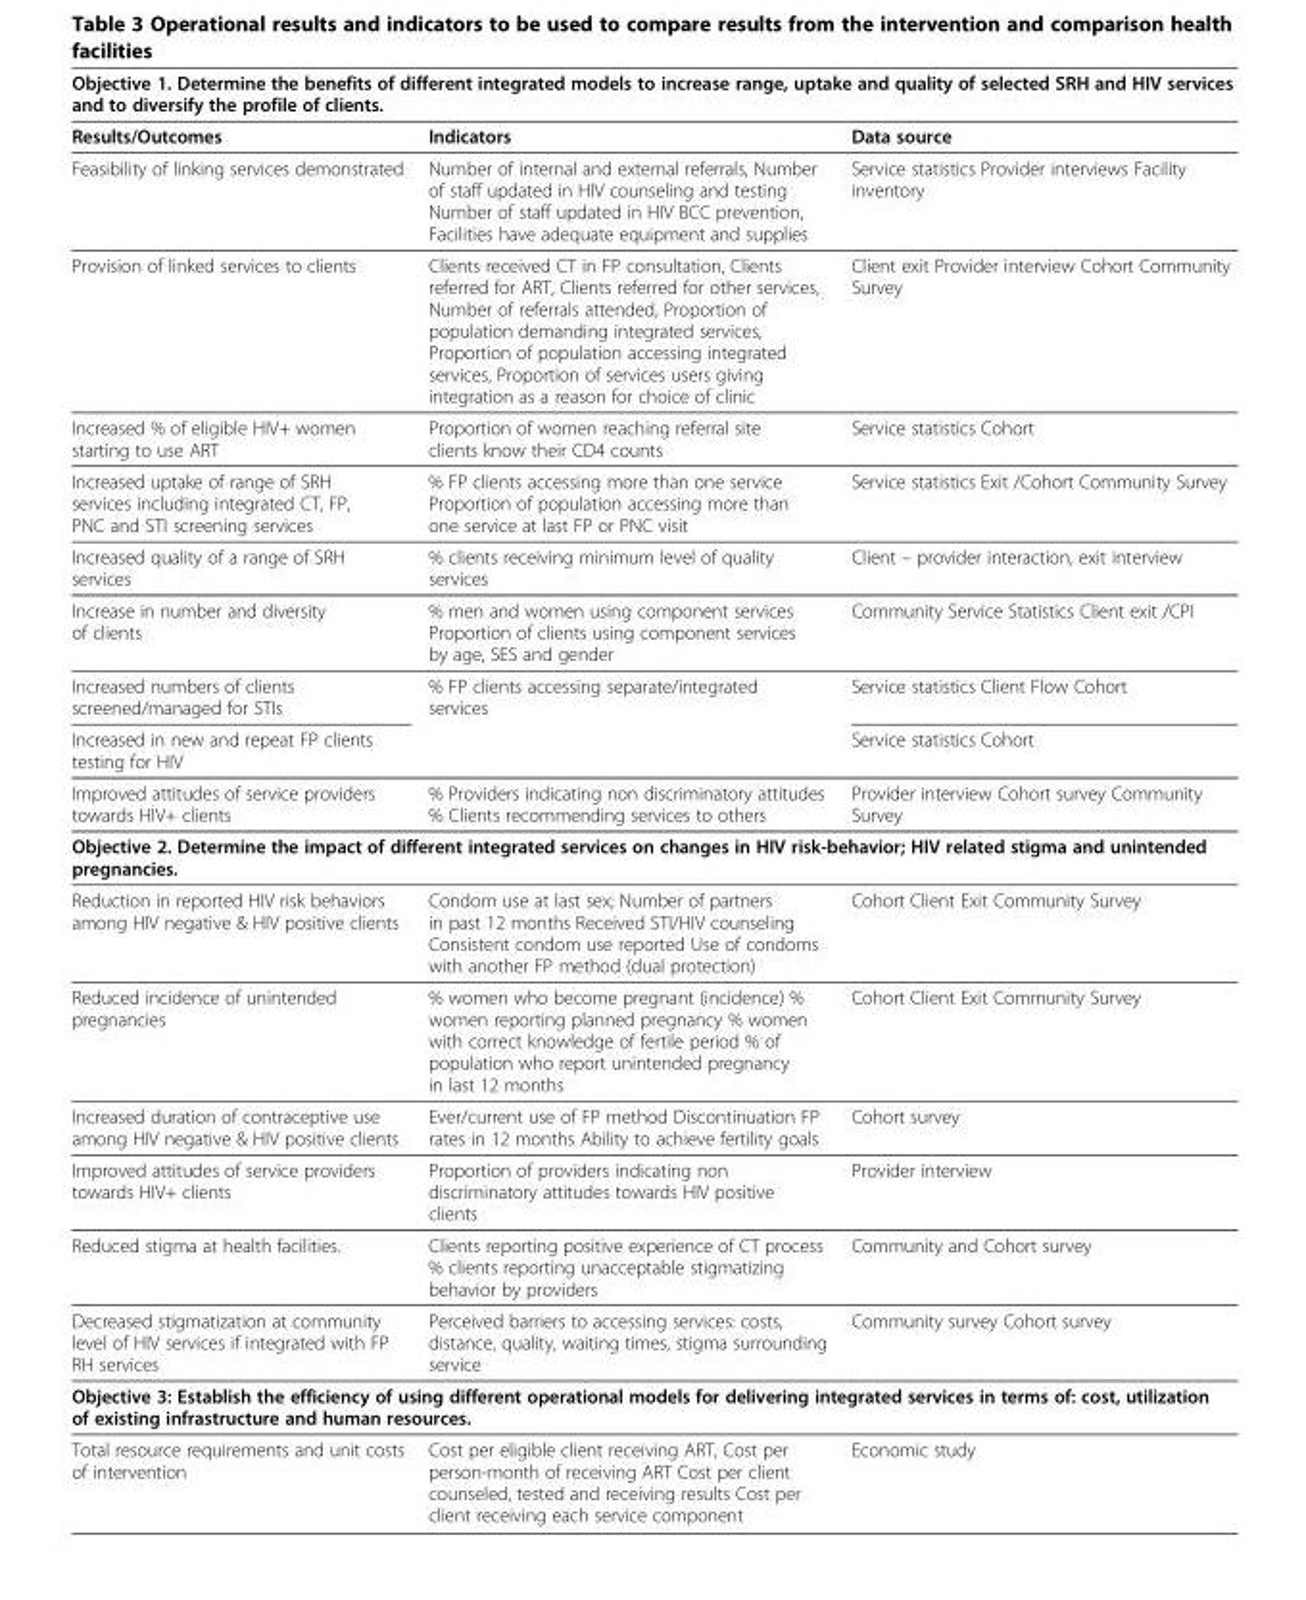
<table><thead><tr><td colspan="3">Objective 1. Determine the benefits of different integrated models to increase range, uptake and quality of selected SRH and HIV services and to diversify the profile of clients.</td></tr><tr><td>Results/Outcomes</td><td>Indicators</td><td>Data source</td></tr></thead><tbody><tr><td>Feasibility of linking services demonstrated</td><td>Number of internal and external referrals, Number of staff updated in HIV counseling and testing Number of staff updated in HIV BCC prevention, Facilities have adequate equipment and supplies</td><td>Service statistics Provider interviews Facility inventory</td></tr><tr><td>Provision of linked services to clients</td><td>Clients received CT in FP consultation, Clients referred for ART, Clients referred for other services, Number of referrals attended, Proportion of population demanding integrated services, Proportion of population accessing integrated services, Proportion of services users giving integration as a reason for choice of clinic</td><td>Client exit Provider interview Cohort Community Survey</td></tr><tr><td>Increased % of eligible HIV+ women starting to use ART</td><td>Proportion of women reaching referral site clients know their CD4 counts</td><td>Service statistics Cohort</td></tr><tr><td>Increased uptake of range of SRH services including integrated CT, FP, PNC and STI screening services</td><td>% FP clients accessing more than one service Proportion of population accessing more than one service at last FP or PNC visit</td><td>Service statistics Exit /Cohort Community Survey</td></tr><tr><td>Increased quality of a range of SRH services</td><td>% clients receiving minimum level of quality services</td><td>Client – provider interaction, exit interview</td></tr><tr><td>Increase in number and diversity of clients</td><td>% men and women using component services Proportion of clients using component services by age, SES and gender</td><td>Community Service Statistics Client exit /CPI</td></tr><tr><td>Increased numbers of clients screened/managed for STIs</td><td>% FP clients accessing separate/integrated services</td><td>Service statistics Client Flow Cohort</td></tr><tr><td>Increased in new and repeat FP clients testing for HIV</td><td></td><td>Service statistics Cohort</td></tr><tr><td>Improved attitudes of service providers towards HIV+ clients</td><td>% Providers indicating non discriminatory attitudes % Clients recommending services to others</td><td>Provider interview Cohort survey Community Survey</td></tr><tr><td colspan="3">Objective 2. Determine the impact of different integrated services on changes in HIV risk-behavior; HIV related stigma and unintended pregnancies.</td></tr><tr><td>Reduction in reported HIV risk behaviors among HIV negative &amp; HIV positive clients</td><td>Condom use at last sex; Number of partners in past 12 months Received STI/HIV counseling Consistent condom use reported Use of condoms with another FP method (dual protection)</td><td>Cohort Client Exit Community Survey</td></tr><tr><td>Reduced incidence of unintended pregnancies</td><td>% women who become pregnant (incidence) % women reporting planned pregnancy % women with correct knowledge of fertile period % of population who report unintended pregnancy in last 12 months</td><td>Cohort Client Exit Community Survey</td></tr><tr><td>Increased duration of contraceptive use among HIV negative &amp; HIV positive clients</td><td>Ever/current use of FP method Discontinuation FP rates in 12 months Ability to achieve fertility goals</td><td>Cohort survey</td></tr><tr><td>Improved attitudes of service providers towards HIV+ clients</td><td>Proportion of providers indicating non discriminatory attitudes towards HIV positive clients</td><td>Provider interview</td></tr><tr><td>Reduced stigma at health facilities.</td><td>Clients reporting positive experience of CT process % clients reporting unacceptable stigmatizing behavior by providers</td><td>Community and Cohort survey</td></tr><tr><td>Decreased stigmatization at community level of HIV services if integrated with FP RH services</td><td>Perceived barriers to accessing services: costs, distance, quality, waiting times, stigma surrounding service</td><td>Community survey Cohort survey</td></tr><tr><td colspan="3">Objective 3: Establish the efficiency of using different operational models for delivering integrated services in terms of: cost, utilization of existing infrastructure and human resources.</td></tr><tr><td>Total resource requirements and unit costs of intervention</td><td>Cost per eligible client receiving ART, Cost per person-month of receiving ART Cost per client counseled, tested and receiving results Cost per client receiving each service component</td><td>Economic study</td></tr></tbody></table>